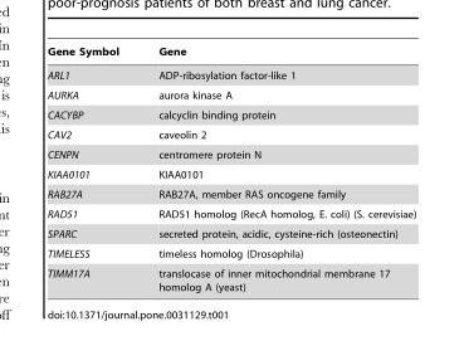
<table><thead><tr><td>Gene Symbol</td><td>Gene</td></tr></thead><tbody><tr><td>ARL1</td><td>ADP-ribosylation factor-like 1</td></tr><tr><td>AURKA</td><td>aurora kinase A</td></tr><tr><td>CACYBP</td><td>calcyclin binding protein</td></tr><tr><td>CAV2</td><td>caveolin 2</td></tr><tr><td>CENPN</td><td>centromere protein N</td></tr><tr><td>KIAA0101</td><td>KIAA0101</td></tr><tr><td>RAB27A</td><td>RAB27A, member RAS oncogene family</td></tr><tr><td>RAD51</td><td>RAD51 homolog (RecA homolog, E. coli) (S. cerevisiae)</td></tr><tr><td>SPARC</td><td>secreted protein, acidic, cysteine-rich (osteonectin)</td></tr><tr><td>TIMELESS</td><td>timeless homolog (Drosophila)</td></tr><tr><td>TIMM17A</td><td>translocase of inner mitochondrial membrane 17 homolog A (yeast)</td></tr></tbody></table>